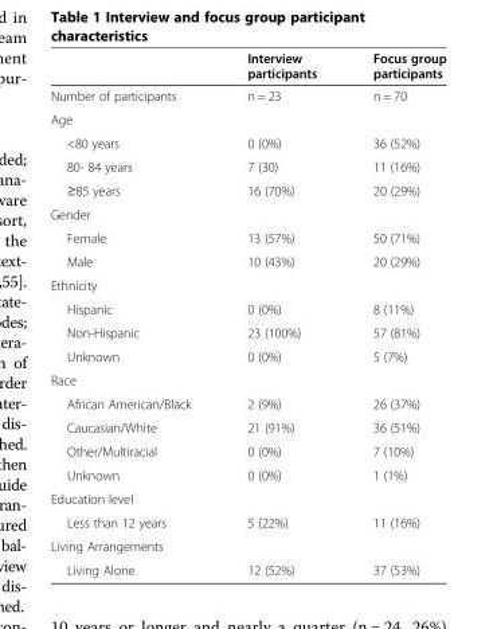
<table><thead><tr><td></td><td>Interview participants</td><td>Focus group participants</td></tr></thead><tbody><tr><td>Number of participants</td><td>n = 23</td><td>n = 70</td></tr><tr><td colspan="3">Age</td></tr><tr><td>&lt;80 years</td><td>0 (0%)</td><td>36 (52%)</td></tr><tr><td>80- 84 years</td><td>7 (30)</td><td>11 (16%)</td></tr><tr><td>≥85 years</td><td>16 (70%)</td><td>20 (29%)</td></tr><tr><td colspan="3">Gender</td></tr><tr><td>Female</td><td>13 (57%)</td><td>50 (71%)</td></tr><tr><td>Male</td><td>10 (43%)</td><td>20 (29%)</td></tr><tr><td colspan="3">Ethnicity</td></tr><tr><td>Hispanic</td><td>0 (0%)</td><td>8 (11%)</td></tr><tr><td>Non-Hispanic</td><td>23 (100%)</td><td>57 (81%)</td></tr><tr><td>Unknown</td><td>0 (0%)</td><td>5 (7%)</td></tr><tr><td colspan="3">Race</td></tr><tr><td>African American/Black</td><td>2 (9%)</td><td>26 (37%)</td></tr><tr><td>Caucasian/White</td><td>21 (91%)</td><td>36 (51%)</td></tr><tr><td>Other/Multiracial</td><td>0 (0%)</td><td>7 (10%)</td></tr><tr><td>Unknown</td><td>0 (0%)</td><td>1 (1%)</td></tr><tr><td colspan="3">Education level</td></tr><tr><td>Less than 12 years</td><td>5 (22%)</td><td>11 (16%)</td></tr><tr><td colspan="3">Living Arrangements</td></tr><tr><td>Living Alone</td><td>12 (52%)</td><td>37 (53%)</td></tr></tbody></table>